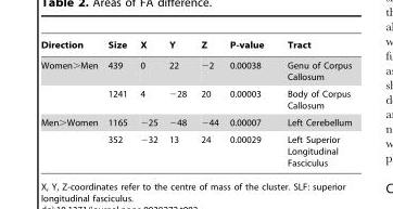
<table><thead><tr><td>Direction</td><td>Size</td><td>X</td><td>Y</td><td>Z</td><td>P-value</td><td>Tract</td></tr></thead><tbody><tr><td rowspan="2">Women&gt;Men</td><td>439</td><td>0</td><td>22</td><td>−2</td><td>0.00038</td><td>Genu of Corpus Callosum</td></tr><tr><td>1241</td><td>4</td><td>−28</td><td>20</td><td>0.00003</td><td>Body of Corpus Callosum</td></tr><tr><td rowspan="2">Men&gt;Women</td><td>1165</td><td>−25</td><td>−48</td><td>−44</td><td>0.00007</td><td>Left Cerebellum</td></tr><tr><td>352</td><td>−32</td><td>13</td><td>24</td><td>0.00029</td><td>Left Superior Longitudinal Fasciculus</td></tr></tbody></table>